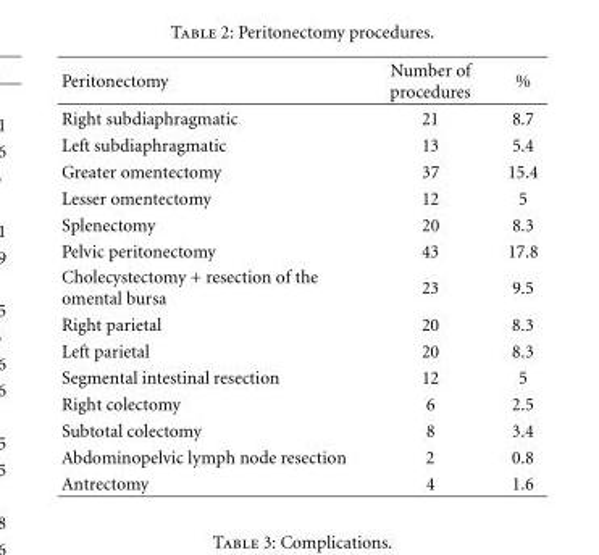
<table><thead><tr><td>Peritonectomy</td><td>Number of procedures</td><td>%</td></tr></thead><tbody><tr><td>Right subdiaphragmatic</td><td>21</td><td>8.7</td></tr><tr><td>Left subdiaphragmatic</td><td>13</td><td>5.4</td></tr><tr><td>Greater omentectomy</td><td>37</td><td>15.4</td></tr><tr><td>Lesser omentectomy</td><td>12</td><td>5</td></tr><tr><td>Splenectomy</td><td>20</td><td>8.3</td></tr><tr><td>Pelvic peritonectomy</td><td>43</td><td>17.8</td></tr><tr><td>Cholecystectomy + resection of the omental bursa</td><td>23</td><td>9.5</td></tr><tr><td>Right parietal</td><td>20</td><td>8.3</td></tr><tr><td>Left parietal</td><td>20</td><td>8.3</td></tr><tr><td>Segmental intestinal resection</td><td>12</td><td>5</td></tr><tr><td>Right colectomy</td><td>6</td><td>2.5</td></tr><tr><td>Subtotal colectomy</td><td>8</td><td>3.4</td></tr><tr><td>Abdominopelvic lymph node resection</td><td>2</td><td>0.8</td></tr><tr><td>Antrectomy</td><td>4</td><td>1.6</td></tr></tbody></table>